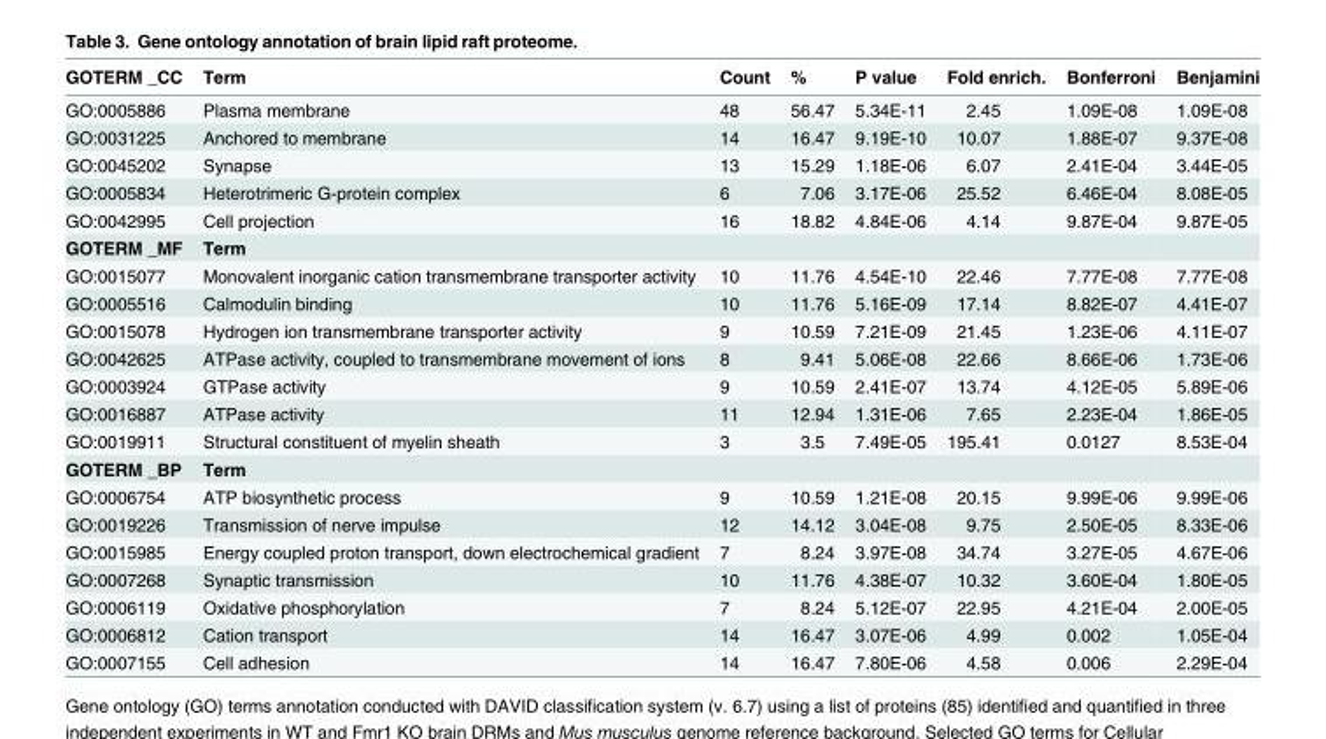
<table><thead><tr><td>GOTERM _CC</td><td>Term</td><td>Count</td><td>%</td><td>P value</td><td>Fold enrich.</td><td>Bonferroni</td><td>Benjamini</td></tr></thead><tbody><tr><td>GO:0005886</td><td>Plasma membrane</td><td>48</td><td>56.47</td><td>5.34E-11</td><td>2.45</td><td>1.09E-08</td><td>1.09E-08</td></tr><tr><td>GO:0031225</td><td>Anchored to membrane</td><td>14</td><td>16.47</td><td>9.19E-10</td><td>10.07</td><td>1.88E-07</td><td>9.37E-08</td></tr><tr><td>GO:0045202</td><td>Synapse</td><td>13</td><td>15.29</td><td>1.18E-06</td><td>6.07</td><td>2.41E-04</td><td>3.44E-05</td></tr><tr><td>GO:0005834</td><td>Heterotrimeric G-protein complex</td><td>6</td><td>7.06</td><td>3.17E-06</td><td>25.52</td><td>6.46E-04</td><td>8.08E-05</td></tr><tr><td>GO:0042995</td><td>Cell projection</td><td>16</td><td>18.82</td><td>4.84E-06</td><td>4.14</td><td>9.87E-04</td><td>9.87E-05</td></tr><tr><td>GOTERM _MF</td><td>Term</td><td></td><td></td><td></td><td></td><td></td><td></td></tr><tr><td>GO:0015077</td><td>Monovalent inorganic cation transmembrane transporter activity</td><td>10</td><td>11.76</td><td>4.54E-10</td><td>22.46</td><td>7.77E-08</td><td>7.77E-08</td></tr><tr><td>GO:0005516</td><td>Calmodulin binding</td><td>10</td><td>11.76</td><td>5.16E-09</td><td>17.14</td><td>8.82E-07</td><td>4.41E-07</td></tr><tr><td>GO:0015078</td><td>Hydrogen ion transmembrane transporter activity</td><td>9</td><td>10.59</td><td>7.21E-09</td><td>21.45</td><td>1.23E-06</td><td>4.11E-07</td></tr><tr><td>GO:0042625</td><td>ATPase activity, coupled to transmembrane movement of ions</td><td>8</td><td>9.41</td><td>5.06E-08</td><td>22.66</td><td>8.66E-06</td><td>1.73E-06</td></tr><tr><td>GO:0003924</td><td>GTPase activity</td><td>9</td><td>10.59</td><td>2.41E-07</td><td>13.74</td><td>4.12E-05</td><td>5.89E-06</td></tr><tr><td>GO:0016887</td><td>ATPase activity</td><td>11</td><td>12.94</td><td>1.31E-06</td><td>7.65</td><td>2.23E-04</td><td>1.86E-05</td></tr><tr><td>GO:0019911</td><td>Structural constituent of myelin sheath</td><td>3</td><td>3.5</td><td>7.49E-05</td><td>195.41</td><td>0.0127</td><td>8.53E-04</td></tr><tr><td>GOTERM _BP</td><td>Term</td><td></td><td></td><td></td><td></td><td></td><td></td></tr><tr><td>GO:0006754</td><td>ATP biosynthetic process</td><td>9</td><td>10.59</td><td>1.21E-08</td><td>20.15</td><td>9.99E-06</td><td>9.99E-06</td></tr><tr><td>GO:0019226</td><td>Transmission of nerve impulse</td><td>12</td><td>14.12</td><td>3.04E-08</td><td>9.75</td><td>2.50E-05</td><td>8.33E-06</td></tr><tr><td>GO:0015985</td><td>Energy coupled proton transport, down electrochemical gradient</td><td>7</td><td>8.24</td><td>3.97E-08</td><td>34.74</td><td>3.27E-05</td><td>4.67E-06</td></tr><tr><td>GO:0007268</td><td>Synaptic transmission</td><td>10</td><td>11.76</td><td>4.38E-07</td><td>10.32</td><td>3.60E-04</td><td>1.80E-05</td></tr><tr><td>GO:0006119</td><td>Oxidative phosphorylation</td><td>7</td><td>8.24</td><td>5.12E-07</td><td>22.95</td><td>4.21E-04</td><td>2.00E-05</td></tr><tr><td>GO:0006812</td><td>Cation transport</td><td>14</td><td>16.47</td><td>3.07E-06</td><td>4.99</td><td>0.002</td><td>1.05E-04</td></tr><tr><td>GO:0007155</td><td>Cell adhesion</td><td>14</td><td>16.47</td><td>7.80E-06</td><td>4.58</td><td>0.006</td><td>2.29E-04</td></tr></tbody></table>